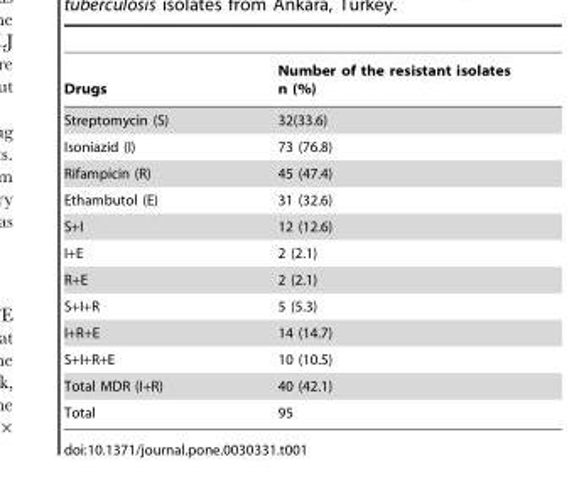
<table><thead><tr><td>Drugs</td><td>Number of the resistant isolates n (%)</td></tr></thead><tbody><tr><td>Streptomycin (S)</td><td>32(33.6)</td></tr><tr><td>Isoniazid (I)</td><td>73 (76.8)</td></tr><tr><td>Rifampicin (R)</td><td>45 (47.4)</td></tr><tr><td>Ethambutol (E)</td><td>31 (32.6)</td></tr><tr><td>S+I</td><td>12 (12.6)</td></tr><tr><td>I+E</td><td>2 (2.1)</td></tr><tr><td>R+E</td><td>2 (2.1)</td></tr><tr><td>S+I+R</td><td>5 (5.3)</td></tr><tr><td>I+R+E</td><td>14 (14.7)</td></tr><tr><td>S+I+R+E</td><td>10 (10.5)</td></tr><tr><td>Total MDR (I+R)</td><td>40 (42.1)</td></tr><tr><td>Total</td><td>95</td></tr></tbody></table>